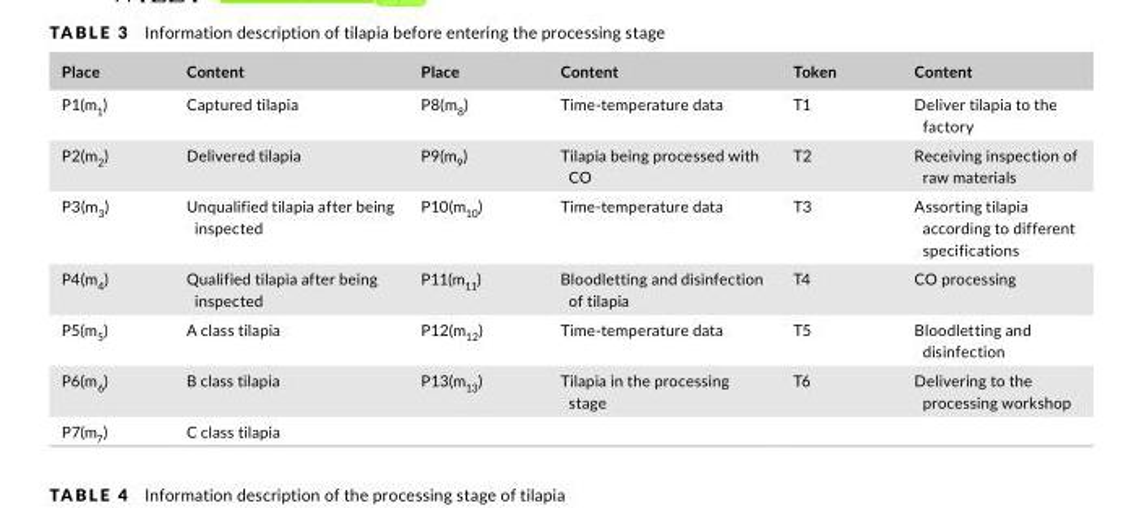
<table><thead><tr><td>Place</td><td>Content</td><td>Place</td><td>Content</td><td>Token</td><td>Content</td></tr></thead><tbody><tr><td>P1(m<sub>1</sub>)</td><td>Captured tilapia</td><td>P8(m<sub>8</sub>)</td><td>Time- temperature data</td><td>T1</td><td>Deliver tilapia to the factory</td></tr><tr><td>P2(m<sub>2</sub>)</td><td>Delivered tilapia</td><td>P9(m<sub>9</sub>)</td><td>Tilapia being processed with CO</td><td>T2</td><td>Receiving inspection of raw materials</td></tr><tr><td>P3(m<sub>3</sub>)</td><td>Unqualified tilapia after being inspected</td><td>P10(m<sub>10</sub>)</td><td>Time- temperature data</td><td>T3</td><td>Assorting tilapia according to different specifications</td></tr><tr><td>P4(m<sub>4</sub>)</td><td>Qualified tilapia after being inspected</td><td>P11(m<sub>11</sub>)</td><td>Bloodletting and disinfection of tilapia</td><td>T4</td><td>CO processing</td></tr><tr><td>P5(m<sub>5</sub>)</td><td>A class tilapia</td><td>P12(m<sub>12</sub>)</td><td>Time- temperature data</td><td>T5</td><td>Bloodletting and disinfection</td></tr><tr><td>P6(m<sub>6</sub>)</td><td>B class tilapia</td><td>P13(m<sub>13</sub>)</td><td>Tilapia in the processing stage</td><td>T6</td><td>Delivering to the processing workshop</td></tr><tr><td>P7(m<sub>7</sub>)</td><td>C class tilapia</td><td></td><td></td><td></td><td></td></tr></tbody></table>